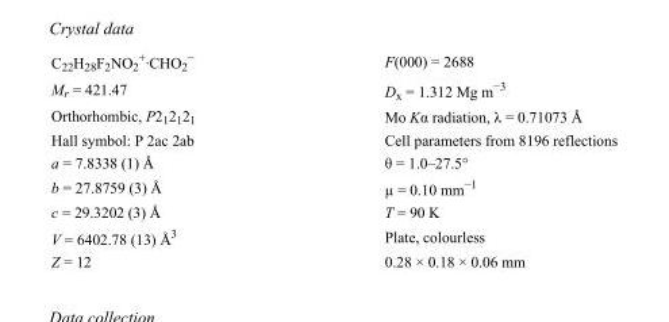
<table><tbody><tr><td>C<sub>22</sub>H<sub>28</sub>F<sub>2</sub>NO<sub>2</sub> <sup>+</sup>·CHO<sub>2</sub> <sup>−</sup></td><td>F(000) = 2688</td></tr><tr><td>M<sub>r</sub> = 421.47</td><td>D<sub>x</sub> = 1.312 Mg m<sup>−3</sup></td></tr><tr><td>Orthorhombic, P2<sub>1</sub>2<sub>1</sub>2<sub>1</sub></td><td>Mo Kα radiation, λ = 0.71073 Å</td></tr><tr><td>Hall symbol: P 2ac 2ab</td><td>Cell parameters from 8196 reflections</td></tr><tr><td>a = 7.8338 (1) Å</td><td>θ = 1.0–27.5°</td></tr><tr><td>b = 27.8759 (3) Å</td><td>µ = 0.10 mm<sup>−1</sup></td></tr><tr><td>c = 29.3202 (3) Å</td><td>T = 90 K</td></tr><tr><td>V = 6402.78 (13) Å<sup>3</sup></td><td>Plate, colourless</td></tr><tr><td>Z = 12</td><td>0.28 × 0.18 × 0.06 mm</td></tr></tbody></table>